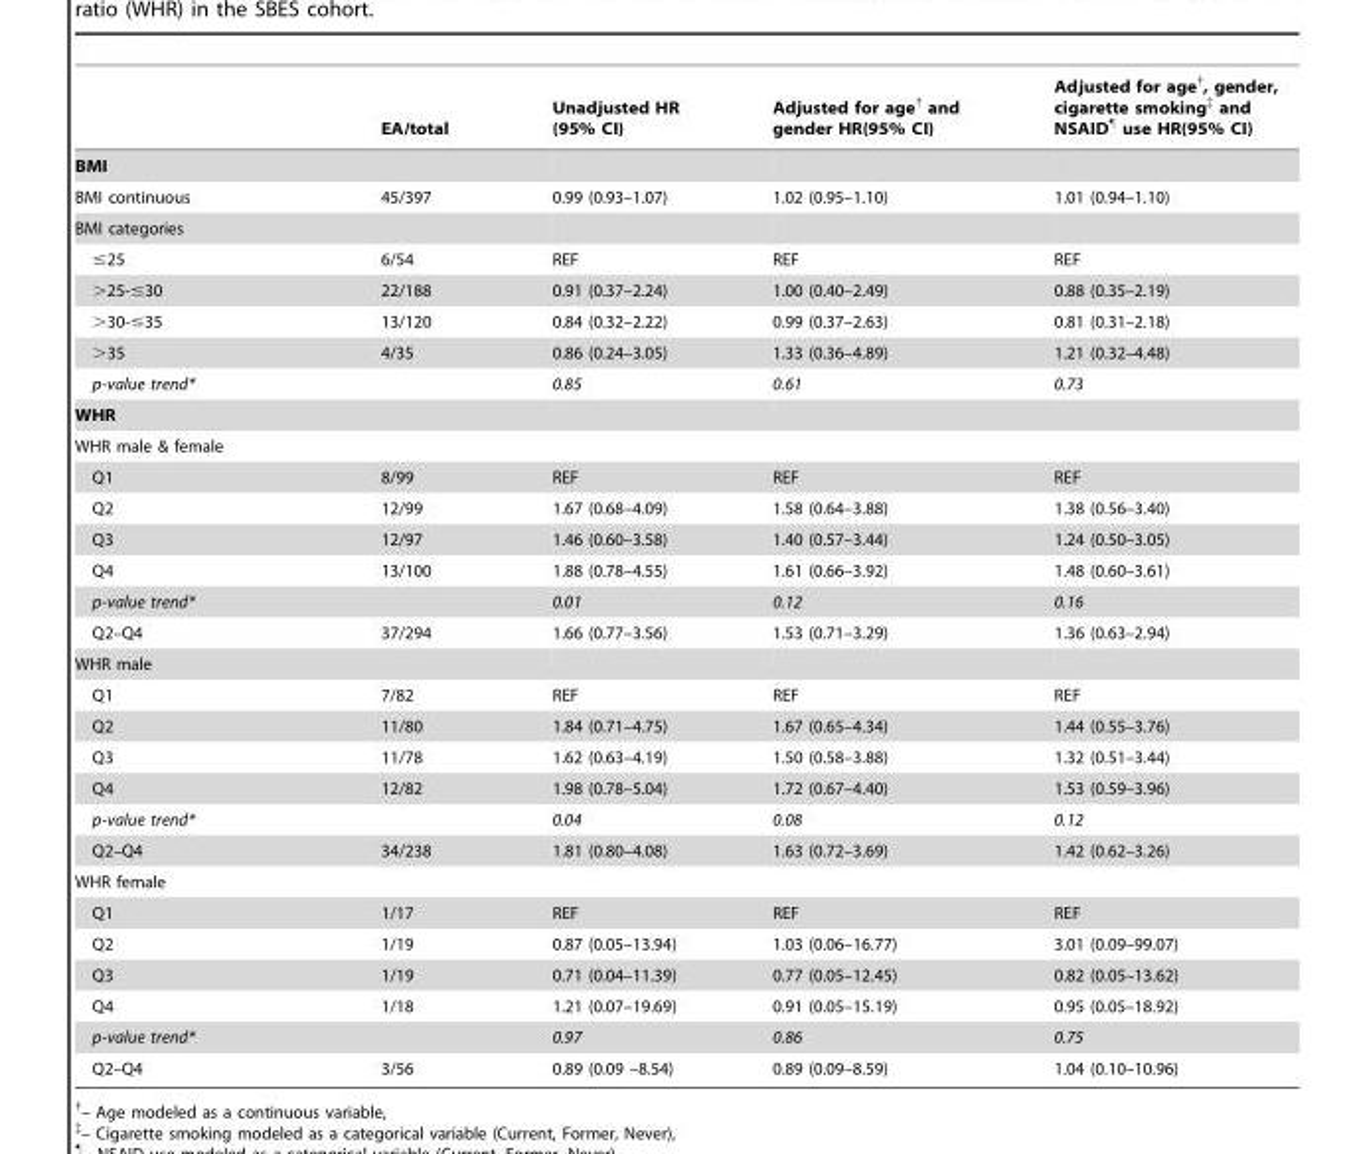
<table><thead><tr><td></td><td>EA/total</td><td>Unadjusted HR (95% CI)</td><td>Adjusted for age† and gender HR(95% CI)</td><td>Adjusted for age†, gender, cigarette smoking‡ and NSAID¶ use HR(95% CI)</td></tr></thead><tbody><tr><td colspan="5">BMI</td></tr><tr><td>BMI continuous</td><td>45/397</td><td>0.99 (0.93–1.07)</td><td>1.02 (0.95–1.10)</td><td>1.01 (0.94–1.10)</td></tr><tr><td colspan="5">BMI categories</td></tr><tr><td>≤25</td><td>6/54</td><td>REF</td><td>REF</td><td>REF</td></tr><tr><td>&gt;25-≤30</td><td>22/188</td><td>0.91 (0.37–2.24)</td><td>1.00 (0.40–2.49)</td><td>0.88 (0.35–2.19)</td></tr><tr><td>&gt;30-≤35</td><td>13/120</td><td>0.84 (0.32–2.22)</td><td>0.99 (0.37–2.63)</td><td>0.81 (0.31–2.18)</td></tr><tr><td>&gt;35</td><td>4/35</td><td>0.86 (0.24–3.05)</td><td>1.33 (0.36–4.89)</td><td>1.21 (0.32–4.48)</td></tr><tr><td>p-value trend*</td><td></td><td>0.85</td><td>0.61</td><td>0.73</td></tr><tr><td colspan="5">WHR</td></tr><tr><td colspan="5">WHR male &amp; female</td></tr><tr><td>Q1</td><td>8/99</td><td>REF</td><td>REF</td><td>REF</td></tr><tr><td>Q2</td><td>12/99</td><td>1.67 (0.68–4.09)</td><td>1.58 (0.64–3.88)</td><td>1.38 (0.56–3.40)</td></tr><tr><td>Q3</td><td>12/97</td><td>1.46 (0.60–3.58)</td><td>1.40 (0.57–3.44)</td><td>1.24 (0.50–3.05)</td></tr><tr><td>Q4</td><td>13/100</td><td>1.88 (0.78–4.55)</td><td>1.61 (0.66–3.92)</td><td>1.48 (0.60–3.61)</td></tr><tr><td>p-value trend*</td><td></td><td>0.01</td><td>0.12</td><td>0.16</td></tr><tr><td>Q2–Q4</td><td>37/294</td><td>1.66 (0.77–3.56)</td><td>1.53 (0.71–3.29)</td><td>1.36 (0.63–2.94)</td></tr><tr><td colspan="5">WHR male</td></tr><tr><td>Q1</td><td>7/82</td><td>REF</td><td>REF</td><td>REF</td></tr><tr><td>Q2</td><td>11/80</td><td>1.84 (0.71–4.75)</td><td>1.67 (0.65–4.34)</td><td>1.44 (0.55–3.76)</td></tr><tr><td>Q3</td><td>11/78</td><td>1.62 (0.63–4.19)</td><td>1.50 (0.58–3.88)</td><td>1.32 (0.51–3.44)</td></tr><tr><td>Q4</td><td>12/82</td><td>1.98 (0.78–5.04)</td><td>1.72 (0.67–4.40)</td><td>1.53 (0.59–3.96)</td></tr><tr><td>p-value trend*</td><td></td><td>0.04</td><td>0.08</td><td>0.12</td></tr><tr><td>Q2–Q4</td><td>34/238</td><td>1.81 (0.80–4.08)</td><td>1.63 (0.72–3.69)</td><td>1.42 (0.62–3.26)</td></tr><tr><td colspan="5">WHR female</td></tr><tr><td>Q1</td><td>1/17</td><td>REF</td><td>REF</td><td>REF</td></tr><tr><td>Q2</td><td>1/19</td><td>0.87 (0.05–13.94)</td><td>1.03 (0.06–16.77)</td><td>3.01 (0.09–99.07)</td></tr><tr><td>Q3</td><td>1/19</td><td>0.71 (0.04–11.39)</td><td>0.77 (0.05–12.45)</td><td>0.82 (0.05–13.62)</td></tr><tr><td>Q4</td><td>1/18</td><td>1.21 (0.07–19.69)</td><td>0.91 (0.05–15.19)</td><td>0.95 (0.05–18.92)</td></tr><tr><td>p-value trend*</td><td></td><td>0.97</td><td>0.86</td><td>0.75</td></tr><tr><td>Q2–Q4</td><td>3/56</td><td>0.89 (0.09 –8.54)</td><td>0.89 (0.09–8.59)</td><td>1.04 (0.10–10.96)</td></tr></tbody></table>